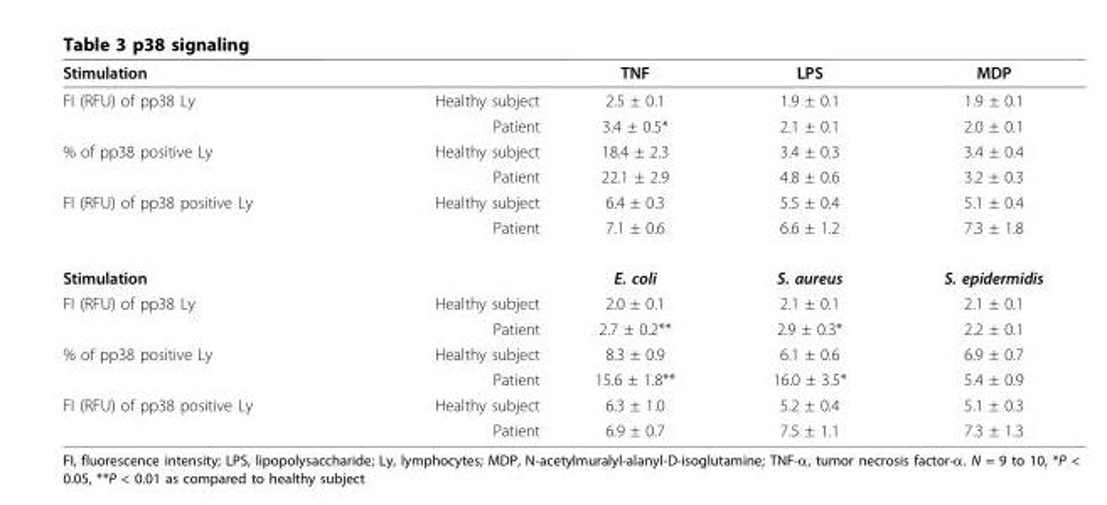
<table><thead><tr><td>Stimulation</td><td></td><td>TNF</td><td>LPS</td><td>MDP</td></tr></thead><tbody><tr><td rowspan="2">FI (RFU) of pp38 Ly</td><td>Healthy subject</td><td>2.5 ± 0.1</td><td>1.9 ± 0.1</td><td>1.9 ± 0.1</td></tr><tr><td>Patient</td><td>3.4 ± 0.5*</td><td>2.1 ± 0.1</td><td>2.0 ± 0.1</td></tr><tr><td rowspan="2">% of pp38 positive Ly</td><td>Healthy subject</td><td>18.4 ± 2.3</td><td>3.4 ± 0.3</td><td>3.4 ± 0.4</td></tr><tr><td>Patient</td><td>22.1 ± 2.9</td><td>4.8 ± 0.6</td><td>3.2 ± 0.3</td></tr><tr><td rowspan="2">FI (RFU) of pp38 positive Ly</td><td>Healthy subject</td><td>6.4 ± 0.3</td><td>5.5 ± 0.4</td><td>5.1 ± 0.4</td></tr><tr><td>Patient</td><td>7.1 ± 0.6</td><td>6.6 ± 1.2</td><td>7.3 ± 1.8</td></tr><tr><td>Stimulation</td><td></td><td>E. coli</td><td>S. aureus</td><td>S. epidermidis</td></tr><tr><td rowspan="2">FI (RFU) of pp38 Ly</td><td>Healthy subject</td><td>2.0 ± 0.1</td><td>2.1 ± 0.1</td><td>2.1 ± 0.1</td></tr><tr><td>Patient</td><td>2.7 ± 0.2**</td><td>2.9 ± 0.3*</td><td>2.2 ± 0.1</td></tr><tr><td rowspan="2">% of pp38 positive Ly</td><td>Healthy subject</td><td>8.3 ± 0.9</td><td>6.1 ± 0.6</td><td>6.9 ± 0.7</td></tr><tr><td>Patient</td><td>15.6 ± 1.8**</td><td>16.0 ± 3.5*</td><td>5.4 ± 0.9</td></tr><tr><td rowspan="2">FI (RFU) of pp38 positive Ly</td><td>Healthy subject</td><td>6.3 ± 1.0</td><td>5.2 ± 0.4</td><td>5.1 ± 0.3</td></tr><tr><td>Patient</td><td>6.9 ± 0.7</td><td>7.5 ± 1.1</td><td>7.3 ± 1.3</td></tr></tbody></table>